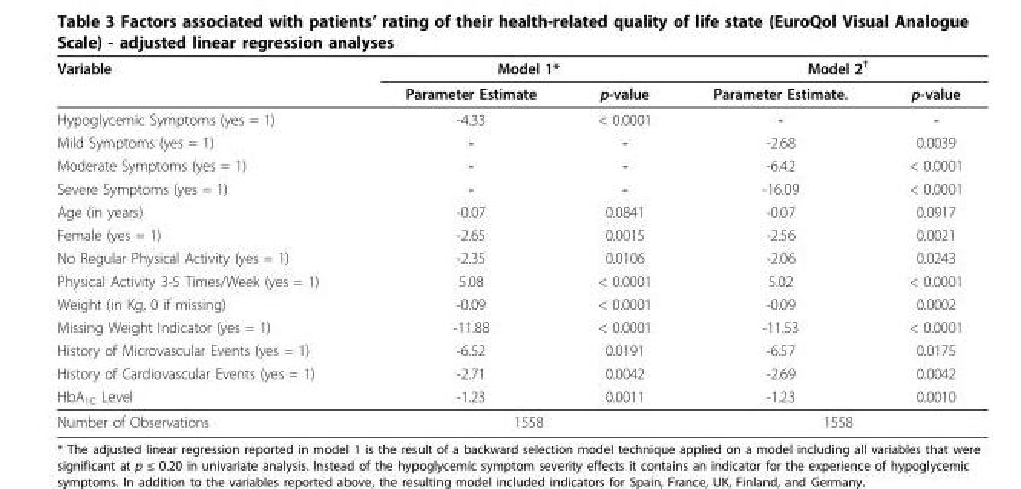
<table><thead><tr><td rowspan="2">Variable</td><td colspan="2">Model 1*</td><td colspan="2">Model 2<sup>†</sup></td></tr><tr><td>Parameter Estimate</td><td>p-value</td><td>Parameter Estimate.</td><td>p-value</td></tr></thead><tbody><tr><td>Hypoglycemic Symptoms (yes = 1)</td><td>-4.33</td><td>&lt; 0.0001</td><td>-</td><td>-</td></tr><tr><td>Mild Symptoms (yes = 1)</td><td>-</td><td>-</td><td>-2.68</td><td>0.0039</td></tr><tr><td>Moderate Symptoms (yes = 1)</td><td>-</td><td>-</td><td>-6.42</td><td>&lt; 0.0001</td></tr><tr><td>Severe Symptoms (yes = 1)</td><td>-</td><td>-</td><td>-16.09</td><td>&lt; 0.0001</td></tr><tr><td>Age (in years)</td><td>-0.07</td><td>0.0841</td><td>-0.07</td><td>0.0917</td></tr><tr><td>Female (yes = 1)</td><td>-2.65</td><td>0.0015</td><td>-2.56</td><td>0.0021</td></tr><tr><td>No Regular Physical Activity (yes = 1)</td><td>-2.35</td><td>0.0106</td><td>-2.06</td><td>0.0243</td></tr><tr><td>Physical Activity 3-5 Times/Week (yes = 1)</td><td>5.08</td><td>&lt; 0.0001</td><td>5.02</td><td>&lt; 0.0001</td></tr><tr><td>Weight (in Kg, 0 if missing)</td><td>-0.09</td><td>&lt; 0.0001</td><td>-0.09</td><td>0.0002</td></tr><tr><td>Missing Weight Indicator (yes = 1)</td><td>-11.88</td><td>&lt; 0.0001</td><td>-11.53</td><td>&lt; 0.0001</td></tr><tr><td>History of Microvascular Events (yes = 1)</td><td>-6.52</td><td>0.0191</td><td>-6.57</td><td>0.0175</td></tr><tr><td>History of Cardiovascular Events (yes = 1)</td><td>-2.71</td><td>0.0042</td><td>-2.69</td><td>0.0042</td></tr><tr><td>HbA<sub>1C</sub> Level</td><td>-1.23</td><td>0.0011</td><td>-1.23</td><td>0.0010</td></tr><tr><td>Number of Observations</td><td colspan="2">1558</td><td colspan="2">1558</td></tr></tbody></table>